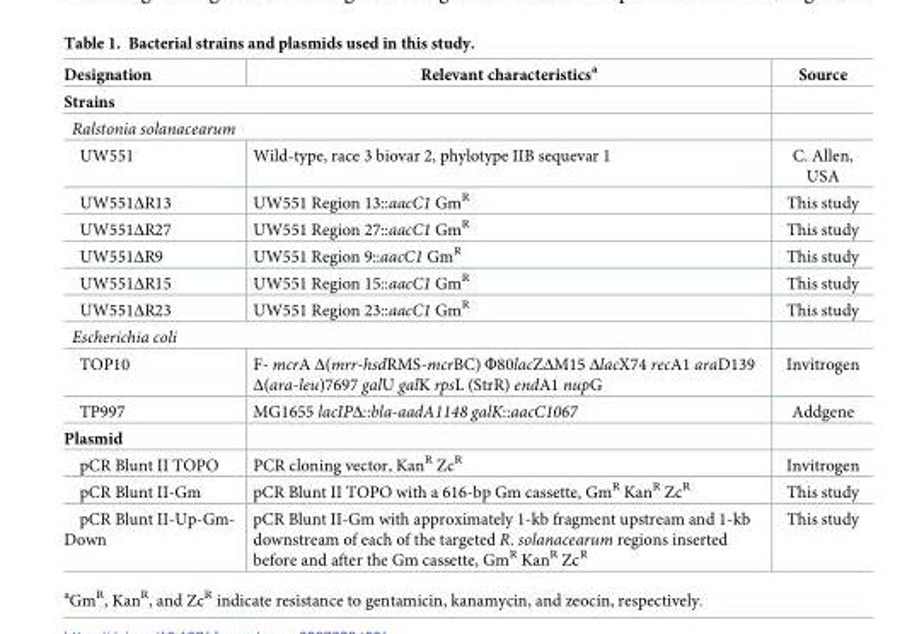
<table><thead><tr><td>Designation</td><td>Relevant characteristics<sup>a</sup></td><td>Source</td></tr></thead><tbody><tr><td colspan="3">Strains</td></tr><tr><td colspan="3">Ralstonia solanacearum</td></tr><tr><td>UW551</td><td>Wild-type, race 3 biovar 2, phylotype IIB sequevar 1</td><td>C. Allen, USA</td></tr><tr><td>UW551ΔR13</td><td>UW551 Region 13::aacC1 Gm<sup>R</sup></td><td>This study</td></tr><tr><td>UW551ΔR27</td><td>UW551 Region 27::aacC1 Gm<sup>R</sup></td><td>This study</td></tr><tr><td>UW551ΔR9</td><td>UW551 Region 9::aacC1 Gm<sup>R</sup></td><td>This study</td></tr><tr><td>UW551ΔR15</td><td>UW551 Region 15::aacC1 Gm<sup>R</sup></td><td>This study</td></tr><tr><td>UW551ΔR23</td><td>UW551 Region 23::aacC1 Gm<sup>R</sup></td><td>This study</td></tr><tr><td colspan="3">Escherichia coli</td></tr><tr><td>TOP10</td><td>F- mcrA Δ(mrr-hsdRMS-mcrBC) Φ80lacZΔM15 ΔlacΧ74 recA1 araD139 Δ(ara-leu)7697 galU galK rpsL (StrR) endA1 nupG</td><td>Invitrogen</td></tr><tr><td>TP997</td><td>MG1655 lacIPΔ::bla-aadA1148 galK::aacC1067</td><td>Addgene</td></tr><tr><td colspan="3">Plasmid</td></tr><tr><td>pCR Blunt II TOPO</td><td>PCR cloning vector, Kan<sup>R</sup> Zc<sup>R</sup></td><td>Invitrogen</td></tr><tr><td>pCR Blunt II-Gm</td><td>pCR Blunt II TOPO with a 616-bp Gm cassette, Gm<sup>R</sup> Kan<sup>R</sup> Zc<sup>R</sup></td><td>This study</td></tr><tr><td>pCR Blunt II-Up-Gm- Down</td><td>pCR Blunt II-Gm with approximately 1-kb fragment upstream and 1-kb downstream of each of the targeted R. solanacearum regions inserted before and after the Gm cassette, Gm<sup>R</sup> Kan<sup>R</sup> Zc<sup>R</sup></td><td>This study</td></tr></tbody></table>